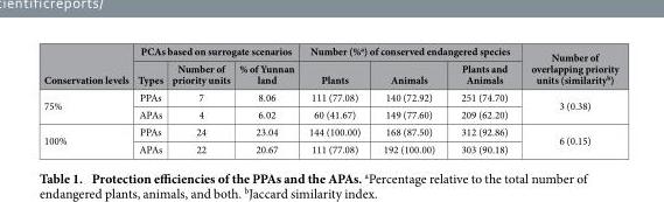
<table><thead><tr><td rowspan="2">Conservation levels</td><td colspan="3">PCAs based on surrogate scenarios</td><td colspan="3">Number (%<sup>a</sup>) of conserved endangered species</td><td rowspan="2">Number of overlapping priority units (similarity<sup>b</sup>)</td></tr><tr><td>Types</td><td>Number of priority units</td><td>% of Yunnan land</td><td>Plants</td><td>Animals</td><td>Plants and Animals</td></tr></thead><tbody><tr><td rowspan="2">75%</td><td>PPAs</td><td>7</td><td>8.06</td><td>111 (77.08)</td><td>140 (72.92)</td><td>251 (74.70)</td><td rowspan="2">3 (0.38)</td></tr><tr><td>APAs</td><td>4</td><td>6.02</td><td>60 (41.67)</td><td>149 (77.60)</td><td>209 (62.20)</td></tr><tr><td rowspan="2">100%</td><td>PPAs</td><td>24</td><td>23.04</td><td>144 (100.00)</td><td>168 (87.50)</td><td>312 (92.86)</td><td rowspan="2">6 (0.15)</td></tr><tr><td>APAs</td><td>22</td><td>20.67</td><td>111 (77.08)</td><td>192 (100.00)</td><td>303 (90.18)</td></tr></tbody></table>